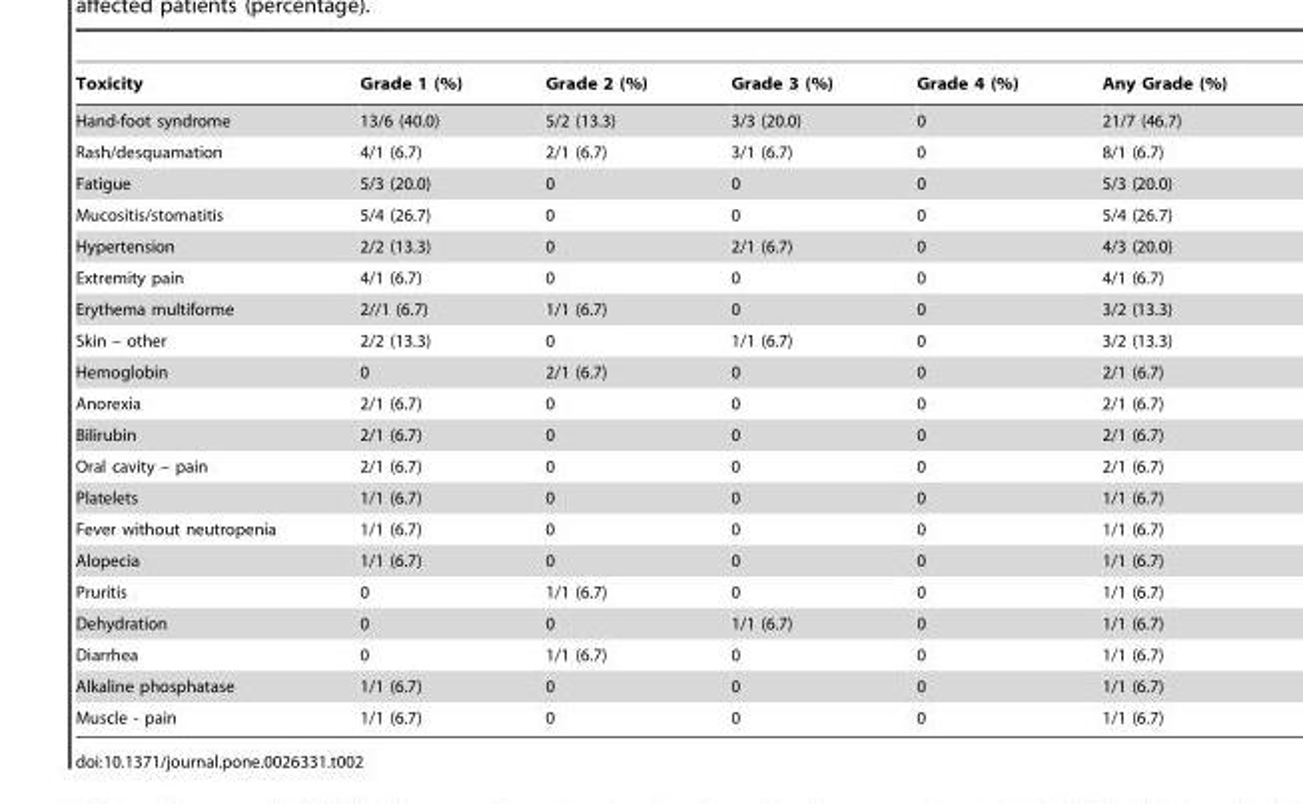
<table><thead><tr><td>Toxicity</td><td>Grade 1 (%)</td><td>Grade 2 (%)</td><td>Grade 3 (%)</td><td>Grade 4 (%)</td><td>Any Grade (%)</td></tr></thead><tbody><tr><td>Hand-foot syndrome</td><td>13/6 (40.0)</td><td>5/2 (13.3)</td><td>3/3 (20.0)</td><td>0</td><td>21/7 (46.7)</td></tr><tr><td>Rash/desquamation</td><td>4/1 (6.7)</td><td>2/1 (6.7)</td><td>3/1 (6.7)</td><td>0</td><td>8/1 (6.7)</td></tr><tr><td>Fatigue</td><td>5/3 (20.0)</td><td>0</td><td>0</td><td>0</td><td>5/3 (20.0)</td></tr><tr><td>Mucositis/stomatitis</td><td>5/4 (26.7)</td><td>0</td><td>0</td><td>0</td><td>5/4 (26.7)</td></tr><tr><td>Hypertension</td><td>2/2 (13.3)</td><td>0</td><td>2/1 (6.7)</td><td>0</td><td>4/3 (20.0)</td></tr><tr><td>Extremity pain</td><td>4/1 (6.7)</td><td>0</td><td>0</td><td>0</td><td>4/1 (6.7)</td></tr><tr><td>Erythema multiforme</td><td>2//1 (6.7)</td><td>1/1 (6.7)</td><td>0</td><td>0</td><td>3/2 (13.3)</td></tr><tr><td>Skin – other</td><td>2/2 (13.3)</td><td>0</td><td>1/1 (6.7)</td><td>0</td><td>3/2 (13.3)</td></tr><tr><td>Hemoglobin</td><td>0</td><td>2/1 (6.7)</td><td>0</td><td>0</td><td>2/1 (6.7)</td></tr><tr><td>Anorexia</td><td>2/1 (6.7)</td><td>0</td><td>0</td><td>0</td><td>2/1 (6.7)</td></tr><tr><td>Bilirubin</td><td>2/1 (6.7)</td><td>0</td><td>0</td><td>0</td><td>2/1 (6.7)</td></tr><tr><td>Oral cavity – pain</td><td>2/1 (6.7)</td><td>0</td><td>0</td><td>0</td><td>2/1 (6.7)</td></tr><tr><td>Platelets</td><td>1/1 (6.7)</td><td>0</td><td>0</td><td>0</td><td>1/1 (6.7)</td></tr><tr><td>Fever without neutropenia</td><td>1/1 (6.7)</td><td>0</td><td>0</td><td>0</td><td>1/1 (6.7)</td></tr><tr><td>Alopecia</td><td>1/1 (6.7)</td><td>0</td><td>0</td><td>0</td><td>1/1 (6.7)</td></tr><tr><td>Pruritis</td><td>0</td><td>1/1 (6.7)</td><td>0</td><td>0</td><td>1/1 (6.7)</td></tr><tr><td>Dehydration</td><td>0</td><td>0</td><td>1/1 (6.7)</td><td>0</td><td>1/1 (6.7)</td></tr><tr><td>Diarrhea</td><td>0</td><td>1/1 (6.7)</td><td>0</td><td>0</td><td>1/1 (6.7)</td></tr><tr><td>Alkaline phosphatase</td><td>1/1 (6.7)</td><td>0</td><td>0</td><td>0</td><td>1/1 (6.7)</td></tr><tr><td>Muscle - pain</td><td>1/1 (6.7)</td><td>0</td><td>0</td><td>0</td><td>1/1 (6.7)</td></tr></tbody></table>